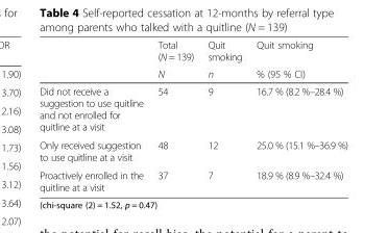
<table><thead><tr><td rowspan="2"></td><td rowspan="2">Total (N = 139) N</td><td rowspan="2">Quit smoking n</td><td rowspan="2">Quit smoking % (95 % CI)</td></tr><tr></tr></thead><tbody><tr><td>Did not receive a suggestion to use quitline and not enrolled for quitline at a visit</td><td>54</td><td>9</td><td>16.7 % (8.2 %–28.4 %)</td></tr><tr><td>Only received suggestion to use quitline at a visit</td><td>48</td><td>12</td><td>25.0 % (15.1 %–36.9 %)</td></tr><tr><td>Proactively enrolled in the quitline at a visit</td><td>37</td><td>7</td><td>18.9 % (8.9 %–32.4 %)</td></tr></tbody></table>